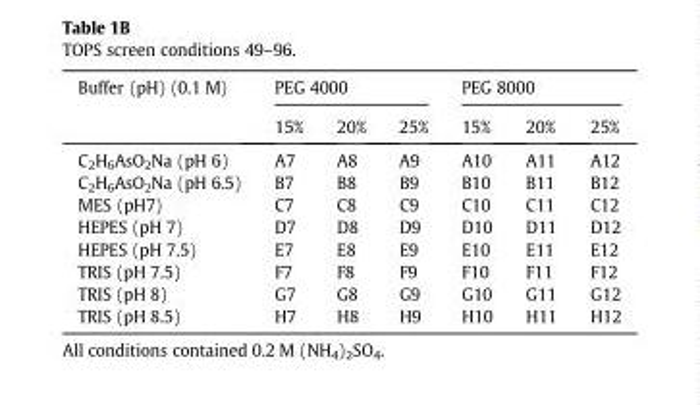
<table><thead><tr><td rowspan="2">Buffer (pH) (0.1 M)</td><td colspan="3">PEG 4000</td><td colspan="3">PEG 8000</td></tr><tr><td>15%</td><td>20%</td><td>25%</td><td>15%</td><td>20%</td><td>25%</td></tr></thead><tbody><tr><td>C<sub>2</sub>H<sub>6</sub>AsO<sub>2</sub>Na (pH 6)</td><td>A7</td><td>A8</td><td>A9</td><td>A10</td><td>A11</td><td>A12</td></tr><tr><td>C<sub>2</sub>H<sub>6</sub>AsO<sub>2</sub>Na (pH 6.5)</td><td>B7</td><td>B8</td><td>B9</td><td>B10</td><td>B11</td><td>B12</td></tr><tr><td>MES (pH7)</td><td>C7</td><td>C8</td><td>C9</td><td>C10</td><td>C11</td><td>C12</td></tr><tr><td>HEPES (pH 7)</td><td>D7</td><td>D8</td><td>D9</td><td>D10</td><td>D11</td><td>D12</td></tr><tr><td>HEPES (pH 7.5)</td><td>E7</td><td>E8</td><td>E9</td><td>E10</td><td>E11</td><td>E12</td></tr><tr><td>TRIS (pH 7.5)</td><td>F7</td><td>F8</td><td>F9</td><td>F10</td><td>F11</td><td>F12</td></tr><tr><td>TRIS (pH 8)</td><td>G7</td><td>G8</td><td>G9</td><td>G10</td><td>G11</td><td>G12</td></tr><tr><td>TRIS (pH 8.5)</td><td>H7</td><td>H8</td><td>H9</td><td>H10</td><td>H11</td><td>H12</td></tr></tbody></table>